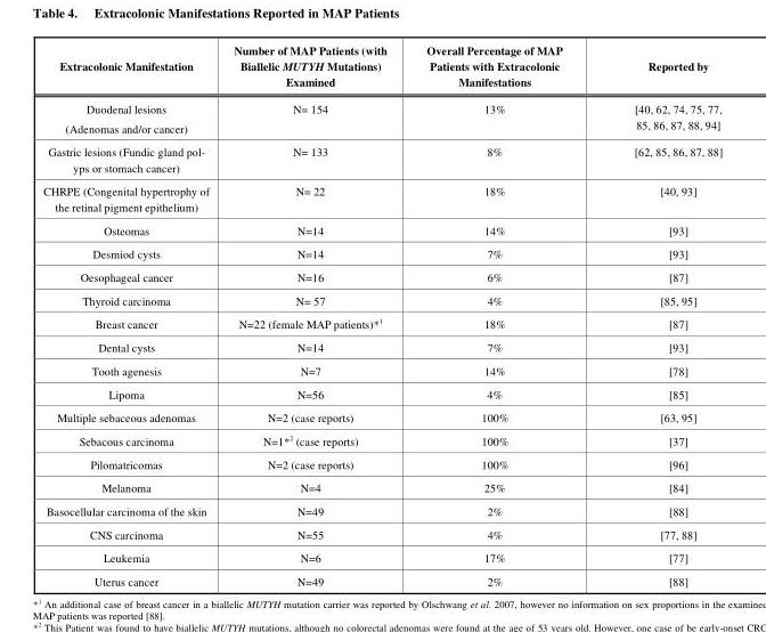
<table><thead><tr><td>Extracolonic Manifestation</td><td>Number of MAP Patients (with Biallelic MUTYH Mutations) Examined</td><td>Overall Percentage of MAP Patients with Extracolonic Manifestations</td><td>Reported by</td></tr></thead><tbody><tr><td>Duodenal lesions (Adenomas and/or cancer)</td><td>N= 154</td><td>13%</td><td>[40, 62, 74, 75, 77, 85, 86, 87, 88, 94]</td></tr><tr><td>Gastric lesions (Fundic gland pol- yps or stomach cancer)</td><td>N= 133</td><td>8%</td><td>[62, 85, 86, 87, 88]</td></tr><tr><td>CHRPE (Congenital hypertrophy of the retinal pigment epithelium)</td><td>N= 22</td><td>18%</td><td>[40, 93]</td></tr><tr><td>Osteomas</td><td>N=14</td><td>14%</td><td>[93]</td></tr><tr><td>Desmiod cysts</td><td>N=14</td><td>7%</td><td>[93]</td></tr><tr><td>Oesophageal cancer</td><td>N=16</td><td>6%</td><td>[87]</td></tr><tr><td>Thyroid carcinoma</td><td>N= 57</td><td>4%</td><td>[85, 95]</td></tr><tr><td>Breast cancer</td><td>N=22 (female MAP patients)*1</td><td>18%</td><td>[87]</td></tr><tr><td>Dental cysts</td><td>N=14</td><td>7%</td><td>[93]</td></tr><tr><td>Tooth agenesis</td><td>N=7</td><td>14%</td><td>[78]</td></tr><tr><td>Lipoma</td><td>N=56</td><td>4%</td><td>[85]</td></tr><tr><td>Multiple sebaceous adenomas</td><td>N=2 (case reports)</td><td>100%</td><td>[63, 95]</td></tr><tr><td>Sebacous carcinoma</td><td>N=1*2 (case reports)</td><td>100%</td><td>[37]</td></tr><tr><td>Pilomatricomas</td><td>N=2 (case reports)</td><td>100%</td><td>[96]</td></tr><tr><td>Melanoma</td><td>N=4</td><td>25%</td><td>[84]</td></tr><tr><td>Basocellular carcinoma of the skin</td><td>N=49</td><td>2%</td><td>[88]</td></tr><tr><td>CNS carcinoma</td><td>N=55</td><td>4%</td><td>[77, 88]</td></tr><tr><td>Leukemia</td><td>N=6</td><td>17%</td><td>[77]</td></tr><tr><td>Uterus cancer</td><td>N=49</td><td>2%</td><td>[88]</td></tr></tbody></table>